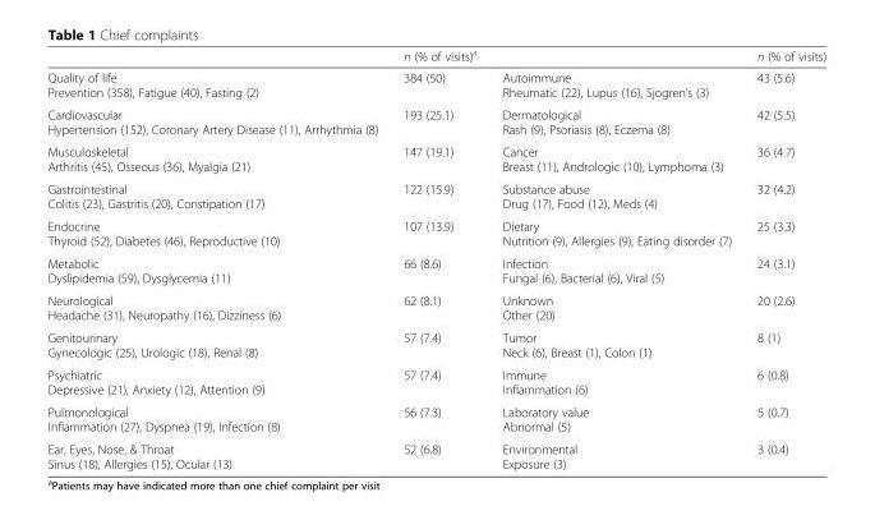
<table><thead><tr><td></td><td>n (% of visits)<sup>a</sup></td><td></td><td>n (% of visits)</td></tr></thead><tbody><tr><td>Quality of life Prevention (358), Fatigue (40), Fasting (2)</td><td>384 (50)</td><td>Autoimmune Rheumatic (22), Lupus (16), Sjogren’s (3)</td><td>43 (5.6)</td></tr><tr><td>Cardiovascular Hypertension (152), Coronary Artery Disease (11), Arrhythmia (8)</td><td>193 (25.1)</td><td>Dermatological Rash (9), Psoriasis (8), Eczema (8)</td><td>42 (5.5)</td></tr><tr><td>Musculoskeletal Arthritis (45), Osseous (36), Myalgia (21)</td><td>147 (19.1)</td><td>Cancer Breast (11), Andrologic (10), Lymphoma (3)</td><td>36 (4.7)</td></tr><tr><td>Gastrointestinal Colitis (23), Gastritis (20), Constipation (17)</td><td>122 (15.9)</td><td>Substance abuse Drug (17), Food (12), Meds (4)</td><td>32 (4.2)</td></tr><tr><td>Endocrine Thyroid (52), Diabetes (46), Reproductive (10)</td><td>107 (13.9)</td><td>Dietary Nutrition (9), Allergies (9), Eating disorder (7)</td><td>25 (3.3)</td></tr><tr><td>Metabolic Dyslipidemia (59), Dysglycemia (11)</td><td>66 (8.6)</td><td>Infection Fungal (6), Bacterial (6), Viral (5)</td><td>24 (3.1)</td></tr><tr><td>Neurological Headache (31), Neuropathy (16), Dizziness (6)</td><td>62 (8.1)</td><td>Unknown Other (20)</td><td>20 (2.6)</td></tr><tr><td>Genitourinary Gynecologic (25), Urologic (18), Renal (8)</td><td>57 (7.4)</td><td>Tumor Neck (6), Breast (1), Colon (1)</td><td>8 (1)</td></tr><tr><td>Psychiatric Depressive (21), Anxiety (12), Attention (9)</td><td>57 (7.4)</td><td>Immune Inflammation (6)</td><td>6 (0.8)</td></tr><tr><td>Pulmonological Inflammation (27), Dyspnea (19), Infection (8)</td><td>56 (7.3)</td><td>Laboratory value Abnormal (5)</td><td>5 (0.7)</td></tr><tr><td>Ear, Eyes, Nose, &amp; Throat Sinus (18), Allergies (15), Ocular (13)</td><td>52 (6.8)</td><td>Environmental Exposure (3)</td><td>3 (0.4)</td></tr></tbody></table>